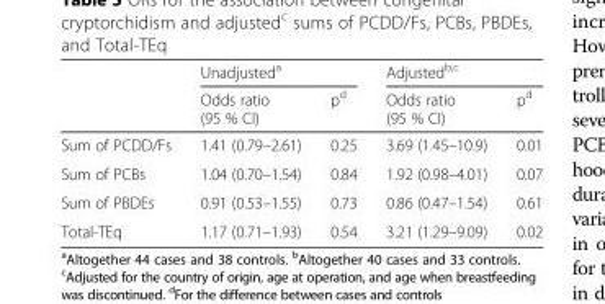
<table><thead><tr><td rowspan="2"></td><td colspan="2">Unadjusted<sup>a</sup></td><td colspan="2">Adjusted<sup>b,c</sup></td></tr><tr><td>Odds ratio (95 % CI)</td><td>p<sup>d</sup></td><td>Odds ratio (95 % CI)</td><td>p<sup>d</sup></td></tr></thead><tbody><tr><td>Sum of PCDD/Fs</td><td>1.41 (0.79–2.61)</td><td>0.25</td><td>3.69 (1.45–10.9)</td><td>0.01</td></tr><tr><td>Sum of PCBs</td><td>1.04 (0.70–1.54)</td><td>0.84</td><td>1.92 (0.98–4.01)</td><td>0.07</td></tr><tr><td>Sum of PBDEs</td><td>0.91 (0.53–1.55)</td><td>0.73</td><td>0.86 (0.47–1.54)</td><td>0.61</td></tr><tr><td>Total-TEq</td><td>1.17 (0.71–1.93)</td><td>0.54</td><td>3.21 (1.29–9.09)</td><td>0.02</td></tr></tbody></table>